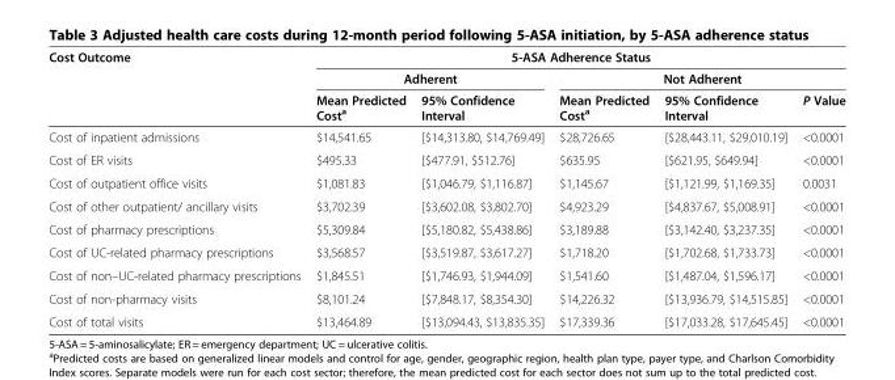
<table><thead><tr><td rowspan="3">Cost Outcome</td><td colspan="5">5-ASA Adherence Status</td></tr><tr><td colspan="2">Adherent</td><td colspan="3">Not Adherent</td></tr><tr><td>Mean Predicted Cost<sup>a</sup></td><td>95% Confidence Interval</td><td>Mean Predicted Cost<sup>a</sup></td><td>95% Confidence Interval</td><td>P Value</td></tr></thead><tbody><tr><td>Cost of inpatient admissions</td><td>$14,541.65</td><td>[$14,313.80, $14,769.49]</td><td>$28,726.65</td><td>[$28,443.11, $29,010.19]</td><td>&lt;0.0001</td></tr><tr><td>Cost of ER visits</td><td>$495.33</td><td>[$477.91, $512.76]</td><td>$635.95</td><td>[$621.95, $649.94]</td><td>&lt;0.0001</td></tr><tr><td>Cost of outpatient office visits</td><td>$1,081.83</td><td>[$1,046.79, $1,116.87]</td><td>$1,145.67</td><td>[$1,121.99, $1,169.35]</td><td>0.0031</td></tr><tr><td>Cost of other outpatient/ ancillary visits</td><td>$3,702.39</td><td>[$3,602.08, $3,802.70]</td><td>$4,923.29</td><td>[$4,837.67, $5,008.91]</td><td>&lt;0.0001</td></tr><tr><td>Cost of pharmacy prescriptions</td><td>$5,309.84</td><td>[$5,180.82, $5,438.86]</td><td>$3,189.88</td><td>[$3,142.40, $3,237.35]</td><td>&lt;0.0001</td></tr><tr><td>Cost of UC-related pharmacy prescriptions</td><td>$3,568.57</td><td>[$3,519.87, $3,617.27]</td><td>$1,718.20</td><td>[$1,702.68, $1,733.73]</td><td>&lt;0.0001</td></tr><tr><td>Cost of non–UC-related pharmacy prescriptions</td><td>$1,845.51</td><td>[$1,746.93, $1,944.09]</td><td>$1,541.60</td><td>[$1,487.04, $1,596.17]</td><td>&lt;0.0001</td></tr><tr><td>Cost of non-pharmacy visits</td><td>$8,101.24</td><td>[$7,848.17, $8,354.30]</td><td>$14,226.32</td><td>[$13,936.79, $14,515.85]</td><td>&lt;0.0001</td></tr><tr><td>Cost of total visits</td><td>$13,464.89</td><td>[$13,094.43, $13,835.35]</td><td>$17,339.36</td><td>[$17,033.28, $17,645.45]</td><td>&lt;0.0001</td></tr></tbody></table>